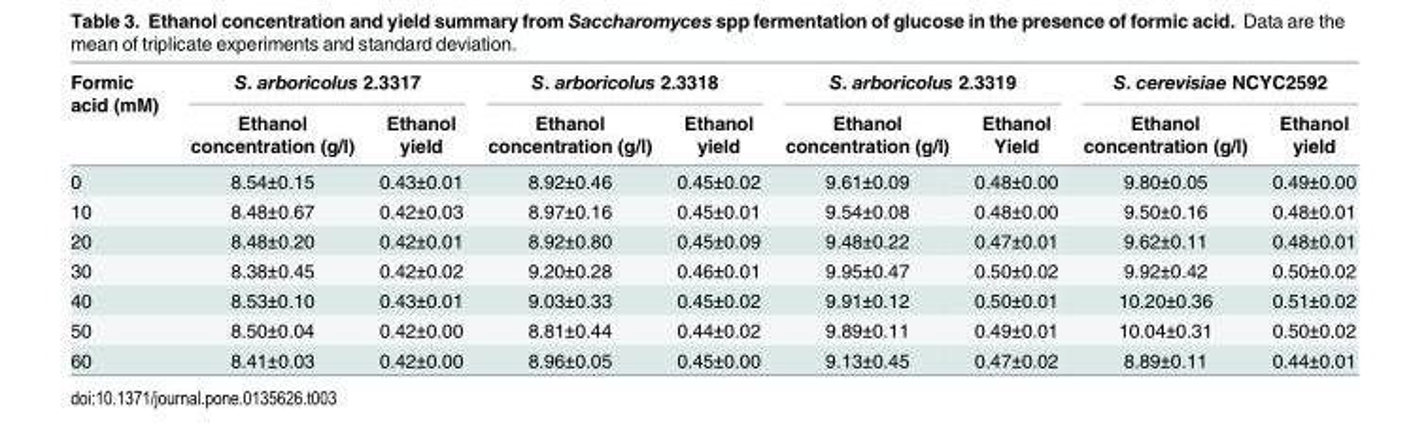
<table><thead><tr><td rowspan="2">Formic acid (mM)</td><td colspan="2">S. arboricolus 2.3317</td><td colspan="2">S. arboricolus 2.3318</td><td colspan="2">S. arboricolus 2.3319</td><td colspan="2">S. cerevisiae NCYC2592</td></tr><tr><td>Ethanol concentration (g/l)</td><td>Ethanol yield</td><td>Ethanol concentration (g/l)</td><td>Ethanol yield</td><td>Ethanol concentration (g/l)</td><td>Ethanol Yield</td><td>Ethanol concentration (g/l)</td><td>Ethanol yield</td></tr></thead><tbody><tr><td>0</td><td>8.54±0.15</td><td>0.43±0.01</td><td>8.92±0.46</td><td>0.45±0.02</td><td>9.61±0.09</td><td>0.48±0.00</td><td>9.80±0.05</td><td>0.49±0.00</td></tr><tr><td>10</td><td>8.48±0.67</td><td>0.42±0.03</td><td>8.97±0.16</td><td>0.45±0.01</td><td>9.54±0.08</td><td>0.48±0.00</td><td>9.50±0.16</td><td>0.48±0.01</td></tr><tr><td>20</td><td>8.48±0.20</td><td>0.42±0.01</td><td>8.92±0.80</td><td>0.45±0.09</td><td>9.48±0.22</td><td>0.47±0.01</td><td>9.62±0.11</td><td>0.48±0.01</td></tr><tr><td>30</td><td>8.38±0.45</td><td>0.42±0.02</td><td>9.20±0.28</td><td>0.46±0.01</td><td>9.95±0.47</td><td>0.50±0.02</td><td>9.92±0.42</td><td>0.50±0.02</td></tr><tr><td>40</td><td>8.53±0.10</td><td>0.43±0.01</td><td>9.03±0.33</td><td>0.45±0.02</td><td>9.91±0.12</td><td>0.50±0.01</td><td>10.20±0.36</td><td>0.51±0.02</td></tr><tr><td>50</td><td>8.50±0.04</td><td>0.42±0.00</td><td>8.81±0.44</td><td>0.44±0.02</td><td>9.89±0.11</td><td>0.49±0.01</td><td>10.04±0.31</td><td>0.50±0.02</td></tr><tr><td>60</td><td>8.41±0.03</td><td>0.42±0.00</td><td>8.96±0.05</td><td>0.45±0.00</td><td>9.13±0.45</td><td>0.47±0.02</td><td>8.89±0.11</td><td>0.44±0.01</td></tr></tbody></table>